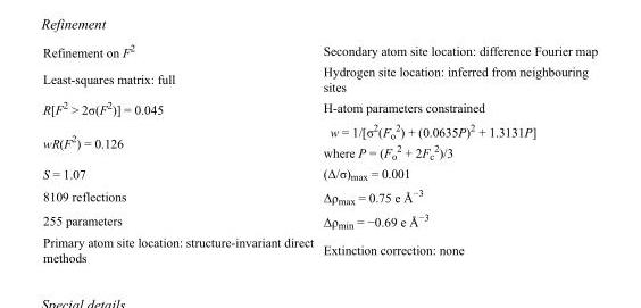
<table><tbody><tr><td>Refinement on F<sup>2</sup></td><td>Secondary atom site location: difference Fourier map</td></tr><tr><td>Least-squares matrix: full</td><td>Hydrogen site location: inferred from neighbouring sites</td></tr><tr><td>R[F<sup>2</sup> &gt; 2σ(F<sup>2</sup>)] = 0.045</td><td>H-atom parameters constrained</td></tr><tr><td>wR(F<sup>2</sup>) = 0.126</td><td>w = 1/[σ<sup>2</sup>(F<sub>o</sub> <sup>2</sup>) + (0.0635P)<sup>2</sup> + 1.3131P] where P = (F<sub>o</sub> <sup>2</sup> + 2F<sub>c</sub> <sup>2</sup>)/3</td></tr><tr><td>S = 1.07</td><td>(Δ/σ)<sub>max</sub> = 0.001</td></tr><tr><td>8109 reflections</td><td>Δρ<sub>max</sub> = 0.75 e Å<sup>−3</sup></td></tr><tr><td>255 parameters</td><td>Δρ<sub>min</sub> = −0.69 e Å<sup>−3</sup></td></tr><tr><td>Primary atom site location: structure-invariant direct methods</td><td>Extinction correction: none</td></tr></tbody></table>